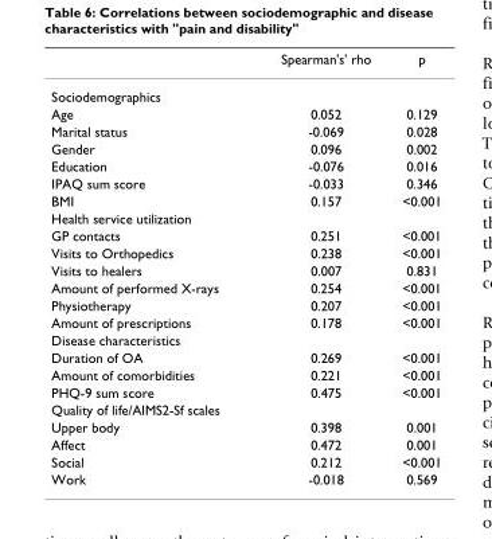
<table><thead><tr><td></td><td>Spearman&#x27;s&#x27; rho</td><td>p</td></tr></thead><tbody><tr><td colspan="3">Sociodemographics</td></tr><tr><td>Age</td><td>0.052</td><td>0.129</td></tr><tr><td>Marital status</td><td>-0.069</td><td>0.028</td></tr><tr><td>Gender</td><td>0.096</td><td>0.002</td></tr><tr><td>Education</td><td>-0.076</td><td>0.016</td></tr><tr><td>IPAQ sum score</td><td>-0.033</td><td>0.346</td></tr><tr><td>BMI</td><td>0.157</td><td>&lt;0.001</td></tr><tr><td colspan="3">Health service utilization</td></tr><tr><td>GP contacts</td><td>0.251</td><td>&lt;0.001</td></tr><tr><td>Visits to Orthopedics</td><td>0.238</td><td>&lt;0.001</td></tr><tr><td>Visits to healers</td><td>0.007</td><td>0.831</td></tr><tr><td>Amount of performed X-rays</td><td>0.254</td><td>&lt;0.001</td></tr><tr><td>Physiotherapy</td><td>0.207</td><td>&lt;0.001</td></tr><tr><td>Amount of prescriptions</td><td>0.178</td><td>&lt;0.001</td></tr><tr><td colspan="3">Disease characteristics</td></tr><tr><td>Duration of OA</td><td>0.269</td><td>&lt;0.001</td></tr><tr><td>Amount of comorbidities</td><td>0.221</td><td>&lt;0.001</td></tr><tr><td>PHQ-9 sum score</td><td>0.475</td><td>&lt;0.001</td></tr><tr><td colspan="3">Quality of life/AIMS2-Sf scales</td></tr><tr><td>Upper body</td><td>0.398</td><td>0.001</td></tr><tr><td>Affect</td><td>0.472</td><td>0.001</td></tr><tr><td>Social</td><td>0.212</td><td>&lt;0.001</td></tr><tr><td>Work</td><td>-0.018</td><td>0.569</td></tr></tbody></table>